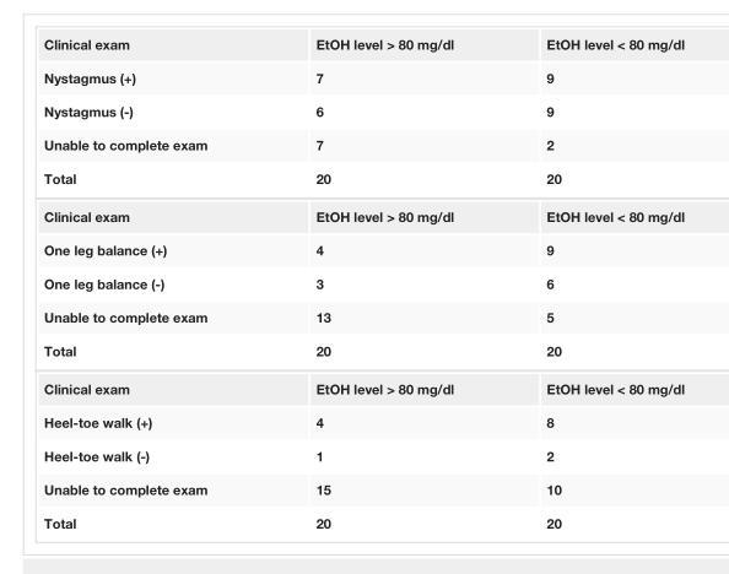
<table><tbody><tr><td>Clinical exam</td><td>EtOH level &gt; 80 mg/dl</td><td>EtOH level &lt; 80 mg/dl</td></tr><tr><td>Nystagmus (+)</td><td>7</td><td>9</td></tr><tr><td>Nystagmus (-)</td><td>6</td><td>9</td></tr><tr><td>Unable to complete exam</td><td>7</td><td>2</td></tr><tr><td>Total</td><td>20</td><td>20</td></tr><tr><td>Clinical exam</td><td>EtOH level &gt; 80 mg/dl</td><td>EtOH level &lt; 80 mg/dl</td></tr><tr><td>One leg balance (+)</td><td>4</td><td>9</td></tr><tr><td>One leg balance (-)</td><td>3</td><td>6</td></tr><tr><td>Unable to complete exam</td><td>13</td><td>5</td></tr><tr><td>Total</td><td>20</td><td>20</td></tr><tr><td>Clinical exam</td><td>EtOH level &gt; 80 mg/dl</td><td>EtOH level &lt; 80 mg/dl</td></tr><tr><td>Heel-toe walk (+)</td><td>4</td><td>8</td></tr><tr><td>Heel-toe walk (-)</td><td>1</td><td>2</td></tr><tr><td>Unable to complete exam</td><td>15</td><td>10</td></tr><tr><td>Total</td><td>20</td><td>20</td></tr></tbody></table>